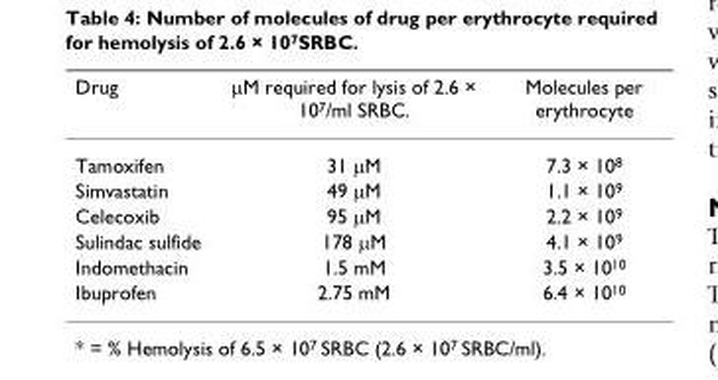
<table><thead><tr><td>Drug</td><td>µM required for lysis of 2.6 × 10<sup>7</sup>/ml SRBC.</td><td>Molecules per erythrocyte</td></tr></thead><tbody><tr><td>Tamoxifen</td><td>31 µM</td><td>7.3 × 10<sup>8</sup></td></tr><tr><td>Simvastatin</td><td>49 µM</td><td>1.1 × 10<sup>9</sup></td></tr><tr><td>Celecoxib</td><td>95 µM</td><td>2.2 × 10<sup>9</sup></td></tr><tr><td>Sulindac sulfide</td><td>178 µM</td><td>4.1 × 10<sup>9</sup></td></tr><tr><td>Indomethacin</td><td>1.5 mM</td><td>3.5 × 10<sup>10</sup></td></tr><tr><td>Ibuprofen</td><td>2.75 mM</td><td>6.4 × 10<sup>10</sup></td></tr></tbody></table>